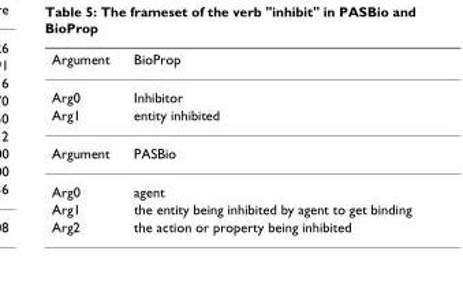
<table><thead><tr><td>Argument</td><td>BioProp</td></tr></thead><tbody><tr><td>Arg0</td><td>Inhibitor</td></tr><tr><td>Arg1</td><td>entity inhibited</td></tr><tr><td>Argument</td><td>PASBio</td></tr><tr><td>Arg0</td><td>agent</td></tr><tr><td>Arg1</td><td>the entity being inhibited by agent to get binding</td></tr><tr><td>Arg2</td><td>the action or property being inhibited</td></tr></tbody></table>